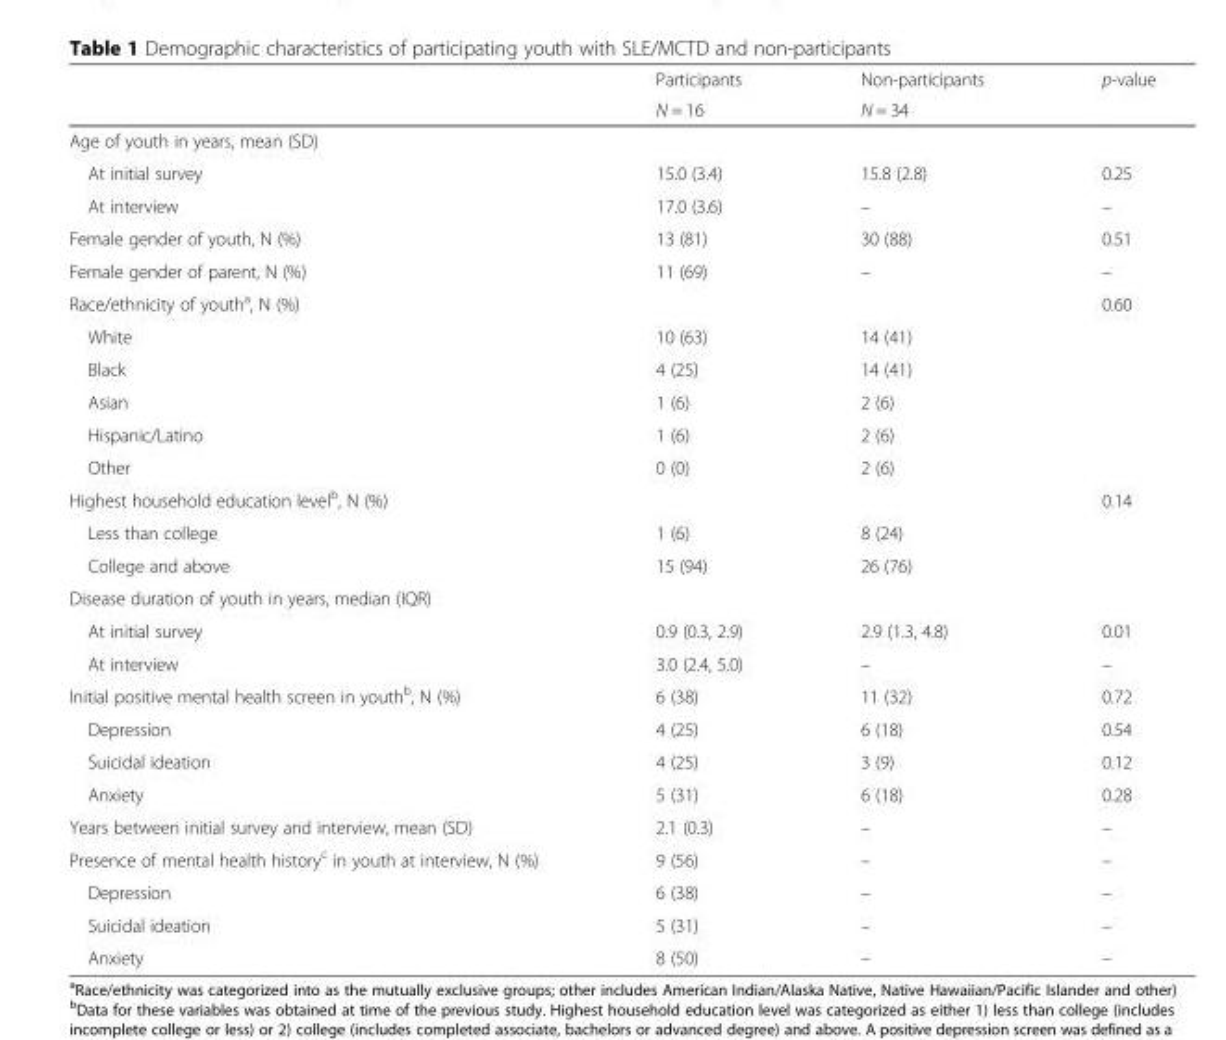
<table><thead><tr><td rowspan="2"></td><td rowspan="2">Participants N = 16</td><td rowspan="2">Non-participants N = 34</td><td rowspan="2">p-value</td></tr><tr></tr></thead><tbody><tr><td colspan="4">Age of youth in years, mean (SD)</td></tr><tr><td>At initial survey</td><td>15.0 (3.4)</td><td>15.8 (2.8)</td><td>0.25</td></tr><tr><td>At interview</td><td>17.0 (3.6)</td><td>–</td><td>–</td></tr><tr><td>Female gender of youth, N (%)</td><td>13 (81)</td><td>30 (88)</td><td>0.51</td></tr><tr><td>Female gender of parent, N (%)</td><td>11 (69)</td><td>–</td><td>–</td></tr><tr><td>Race/ethnicity of youth<sup>a</sup>, N (%)</td><td></td><td></td><td>0.60</td></tr><tr><td>White</td><td>10 (63)</td><td>14 (41)</td><td></td></tr><tr><td>Black</td><td>4 (25)</td><td>14 (41)</td><td></td></tr><tr><td>Asian</td><td>1 (6)</td><td>2 (6)</td><td></td></tr><tr><td>Hispanic/Latino</td><td>1 (6)</td><td>2 (6)</td><td></td></tr><tr><td>Other</td><td>0 (0)</td><td>2 (6)</td><td></td></tr><tr><td>Highest household education level<sup>b</sup>, N (%)</td><td></td><td></td><td>0.14</td></tr><tr><td>Less than college</td><td>1 (6)</td><td>8 (24)</td><td></td></tr><tr><td>College and above</td><td>15 (94)</td><td>26 (76)</td><td></td></tr><tr><td colspan="4">Disease duration of youth in years, median (IQR)</td></tr><tr><td>At initial survey</td><td>0.9 (0.3, 2.9)</td><td>2.9 (1.3, 4.8)</td><td>0.01</td></tr><tr><td>At interview</td><td>3.0 (2.4, 5.0)</td><td>–</td><td>–</td></tr><tr><td>Initial positive mental health screen in youth<sup>b</sup>, N (%)</td><td>6 (38)</td><td>11 (32)</td><td>0.72</td></tr><tr><td>Depression</td><td>4 (25)</td><td>6 (18)</td><td>0.54</td></tr><tr><td>Suicidal ideation</td><td>4 (25)</td><td>3 (9)</td><td>0.12</td></tr><tr><td>Anxiety</td><td>5 (31)</td><td>6 (18)</td><td>0.28</td></tr><tr><td>Years between initial survey and interview, mean (SD)</td><td>2.1 (0.3)</td><td>–</td><td>–</td></tr><tr><td>Presence of mental health history<sup>c</sup> in youth at interview, N (%)</td><td>9 (56)</td><td>–</td><td>–</td></tr><tr><td>Depression</td><td>6 (38)</td><td>–</td><td>–</td></tr><tr><td>Suicidal ideation</td><td>5 (31)</td><td>–</td><td>–</td></tr><tr><td>Anxiety</td><td>8 (50)</td><td>–</td><td>–</td></tr></tbody></table>